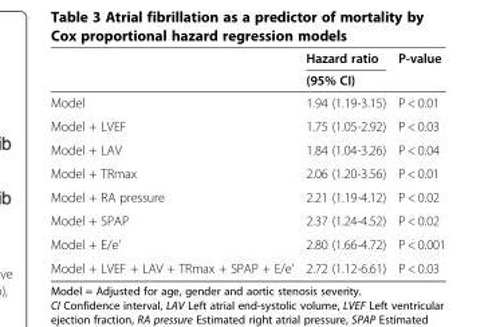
<table><thead><tr><td rowspan="2"></td><td rowspan="2">Hazard ratio (95% CI)</td><td rowspan="2">P-value</td></tr><tr></tr></thead><tbody><tr><td>Model</td><td>1.94 (1.19-3.15)</td><td>P &lt; 0.01</td></tr><tr><td>Model + LVEF</td><td>1.75 (1.05-2.92)</td><td>P &lt; 0.03</td></tr><tr><td>Model + LAV</td><td>1.84 (1.04-3.26)</td><td>P &lt; 0.04</td></tr><tr><td>Model + TRmax</td><td>2.06 (1.20-3.56)</td><td>P &lt; 0.01</td></tr><tr><td>Model + RA pressure</td><td>2.21 (1.19-4.12)</td><td>P &lt; 0.02</td></tr><tr><td>Model + SPAP</td><td>2.37 (1.24-4.52)</td><td>P &lt; 0.02</td></tr><tr><td>Model + E/e’</td><td>2.80 (1.66-4.72)</td><td>P &lt; 0.001</td></tr><tr><td>Model + LVEF + LAV + TRmax + SPAP + E/e’</td><td>2.72 (1.12-6.61)</td><td>P &lt; 0.03</td></tr></tbody></table>